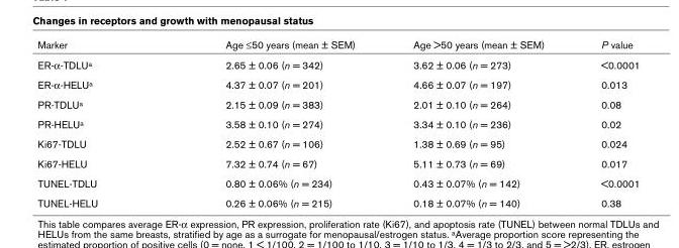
<table><thead><tr><td>Marker</td><td>Age ≤50 years (mean ± SEM)</td><td>Age &gt;50 years (mean ± SEM)</td><td>P value</td></tr></thead><tbody><tr><td>ER-α-TDLUa</td><td>2.65 ± 0.06 (n = 342)</td><td>3.62 ± 0.06 (n = 273)</td><td>&lt;0.0001</td></tr><tr><td>ER-α-HELUa</td><td>4.37 ± 0.07 (n = 201)</td><td>4.66 ± 0.07 (n = 197)</td><td>0.013</td></tr><tr><td>PR-TDLUa</td><td>2.15 ± 0.09 (n = 383)</td><td>2.01 ± 0.10 (n = 264)</td><td>0.08</td></tr><tr><td>PR-HELUa</td><td>3.58 ± 0.10 (n = 274)</td><td>3.34 ± 0.10 (n = 236)</td><td>0.02</td></tr><tr><td>Ki67-TDLU</td><td>2.52 ± 0.67 (n = 106)</td><td>1.38 ± 0.69 (n = 95)</td><td>0.024</td></tr><tr><td>Ki67-HELU</td><td>7.32 ± 0.74 (n = 67)</td><td>5.11 ± 0.73 (n = 69)</td><td>0.017</td></tr><tr><td>TUNEL-TDLU</td><td>0.80 ± 0.06% (n = 234)</td><td>0.43 ± 0.07% (n = 142)</td><td>&lt;0.0001</td></tr><tr><td>TUNEL-HELU</td><td>0.26 ± 0.06% (n = 215)</td><td>0.18 ± 0.07% (n = 140)</td><td>0.38</td></tr></tbody></table>